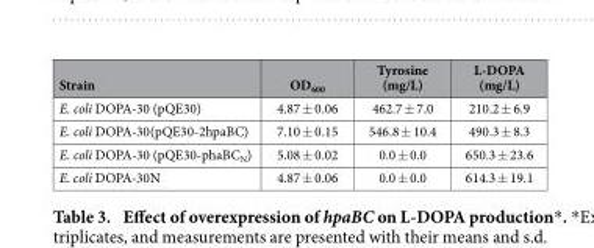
<table><thead><tr><td>Strain</td><td>OD<sub>600</sub></td><td>Tyrosine (mg/L)</td><td>L-DOPA (mg/L)</td></tr></thead><tbody><tr><td>E. coli DOPA-30 (pQE30)</td><td>4.87 ± 0.06</td><td>462.7 ± 7.0</td><td>210.2 ± 6.9</td></tr><tr><td>E. coli DOPA-30(pQE30-2hpaBC)</td><td>7.10 ± 0.15</td><td>546.8 ± 10.4</td><td>490.3 ± 8.3</td></tr><tr><td>E. coli DOPA-30 (pQE30-phaBC<sub>N</sub>)</td><td>5.08 ± 0.02</td><td>0.0 ± 0.0</td><td>650.3 ± 23.6</td></tr><tr><td>E. coli DOPA-30N</td><td>4.87 ± 0.06</td><td>0.0 ± 0.0</td><td>614.3 ± 19.1</td></tr></tbody></table>